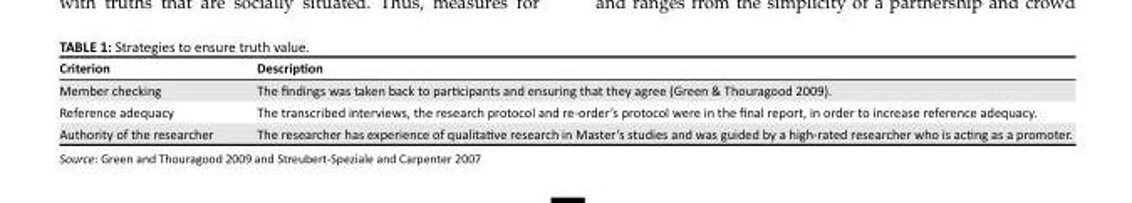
<table><thead><tr><td>Criterion</td><td>Description</td></tr></thead><tbody><tr><td>Member checking</td><td>The findings was taken back to participants and ensuring that they agree (Green &amp; Thouragood 2009).</td></tr><tr><td>Reference adequacy</td><td>The transcribed interviews, the research protocol and re-order’s protocol were in the final report, in order to increase reference adequacy.</td></tr><tr><td>Authority of the researcher</td><td>The researcher has experience of qualitative research in Master’s studies and was guided by a high-rated researcher who is acting as a promoter.</td></tr></tbody></table>